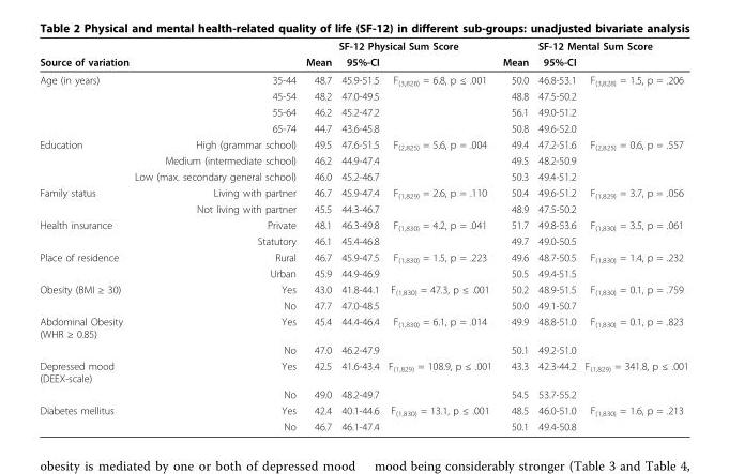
<table><thead><tr><td></td><td></td><td colspan="3">SF-12 Physical Sum Score</td><td colspan="3">SF-12 Mental Sum Score</td></tr><tr><td colspan="2">Source of variation</td><td>Mean</td><td>95%-CI</td><td></td><td>Mean</td><td>95%-CI</td><td></td></tr></thead><tbody><tr><td rowspan="4">Age (in years)</td><td>35-44</td><td>48.7</td><td>45.9-51.5</td><td>F<sub>(3,828)</sub> = 6.8, p ≤ .001</td><td>50.0</td><td>46.8-53.1</td><td>F<sub>(3,828)</sub> = 1.5, p = .206</td></tr><tr><td>45-54</td><td>48.2</td><td>47.0-49.5</td><td></td><td>48.8</td><td>47.5-50.2</td><td></td></tr><tr><td>55-64</td><td>46.2</td><td>45.2-47.2</td><td></td><td>56.1</td><td>49.0-51.2</td><td></td></tr><tr><td>65-74</td><td>44.7</td><td>43.6-45.8</td><td></td><td>50.8</td><td>49.6-52.0</td><td></td></tr><tr><td rowspan="3">Education</td><td>High (grammar school)</td><td>49.5</td><td>47.6-51.5</td><td>F<sub>(2,825)</sub> = 5.6, p = .004</td><td>49.4</td><td>47.2-51.6</td><td>F<sub>(2,825)</sub> = 0.6, p = .557</td></tr><tr><td>Medium (intermediate school)</td><td>46.2</td><td>44.9-47.4</td><td></td><td>49.5</td><td>48.2-50.9</td><td></td></tr><tr><td>Low (max. secondary general school)</td><td>46.0</td><td>45.2-46.7</td><td></td><td>50.3</td><td>49.4-51.2</td><td></td></tr><tr><td rowspan="2">Family status</td><td>Living with partner</td><td>46.7</td><td>45.9-47.4</td><td>F<sub>(1,829)</sub> = 2.6, p = .110</td><td>50.4</td><td>49.6-51.2</td><td>F<sub>(1,829)</sub> = 3.7, p = .056</td></tr><tr><td>Not living with partner</td><td>45.5</td><td>44.3-46.7</td><td></td><td>48.9</td><td>47.5-50.2</td><td></td></tr><tr><td rowspan="2">Health insurance</td><td>Private</td><td>48.1</td><td>46.3-49.8</td><td>F<sub>(1,830)</sub> = 4.2, p = .041</td><td>51.7</td><td>49.8-53.6</td><td>F<sub>(1,830)</sub> = 3.5, p = .061</td></tr><tr><td>Statutory</td><td>46.1</td><td>45.4-46.8</td><td></td><td>49.7</td><td>49.0-50.5</td><td></td></tr><tr><td rowspan="2">Place of residence</td><td>Rural</td><td>46.7</td><td>45.9-47.5</td><td>F<sub>(1,830)</sub> = 1.5, p = .223</td><td>49.6</td><td>48.7-50.5</td><td>F<sub>(1,830)</sub> = 1.4, p = .232</td></tr><tr><td>Urban</td><td>45.9</td><td>44.9-46.9</td><td></td><td>50.5</td><td>49.4-51.5</td><td></td></tr><tr><td rowspan="2">Obesity (BMI ≥ 30)</td><td>Yes</td><td>43.0</td><td>41.8-44.1</td><td>F<sub>(1,830)</sub> = 47.3, p ≤ .001</td><td>50.2</td><td>48.9-51.5</td><td>F<sub>(1,830)</sub> = 0.1, p = .759</td></tr><tr><td>No</td><td>47.7</td><td>47.0-48.5</td><td></td><td>50.0</td><td>49.1-50.7</td><td></td></tr><tr><td rowspan="2">Abdominal Obesity (WHR ≥ 0.85)</td><td>Yes</td><td>45.4</td><td>44.4-46.4</td><td>F<sub>(1,830)</sub> = 6.1, p = .014</td><td>49.9</td><td>48.8-51.0</td><td>F<sub>(1,830)</sub> = 0.1, p = .823</td></tr><tr><td>No</td><td>47.0</td><td>46.2-47.9</td><td></td><td>50.1</td><td>49.2-51.0</td><td></td></tr><tr><td rowspan="2">Depressed mood (DEEX-scale)</td><td>Yes</td><td>42.5</td><td>41.6-43.4</td><td>F<sub>(1,829)</sub> = 108.9, p ≤ .001</td><td>43.3</td><td>42.3-44.2</td><td>F<sub>(1,829)</sub> = 341.8, p ≤ .001</td></tr><tr><td>No</td><td>49.0</td><td>48.2-49.7</td><td></td><td>54.5</td><td>53.7-55.2</td><td></td></tr><tr><td rowspan="2">Diabetes mellitus</td><td>Yes</td><td>42.4</td><td>40.1-44.6</td><td>F<sub>(1,830)</sub> = 13.1, p ≤ .001</td><td>48.5</td><td>46.0-51.0</td><td>F<sub>(1,830)</sub> = 1.6, p = .213</td></tr><tr><td>No</td><td>46.7</td><td>46.1-47.4</td><td></td><td>50.1</td><td>49.4-50.8</td><td></td></tr></tbody></table>